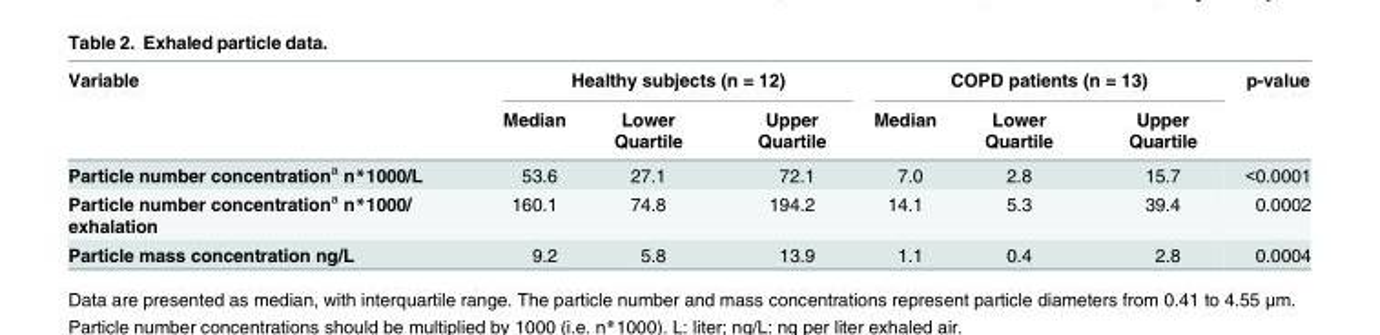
<table><thead><tr><td rowspan="2">Variable</td><td colspan="3">Healthy subjects (n = 12)</td><td colspan="3">COPD patients (n = 13)</td><td rowspan="2">p-value</td></tr><tr><td>Median</td><td>Lower Quartile</td><td>Upper Quartile</td><td>Median</td><td>Lower Quartile</td><td>Upper Quartile</td></tr></thead><tbody><tr><td>Particle number concentration<sup>a</sup> n*1000/L</td><td>53.6</td><td>27.1</td><td>72.1</td><td>7.0</td><td>2.8</td><td>15.7</td><td>&lt;0.0001</td></tr><tr><td>Particle number concentration<sup>a</sup> n*1000/ exhalation</td><td>160.1</td><td>74.8</td><td>194.2</td><td>14.1</td><td>5.3</td><td>39.4</td><td>0.0002</td></tr><tr><td>Particle mass concentration ng/L</td><td>9.2</td><td>5.8</td><td>13.9</td><td>1.1</td><td>0.4</td><td>2.8</td><td>0.0004</td></tr></tbody></table>